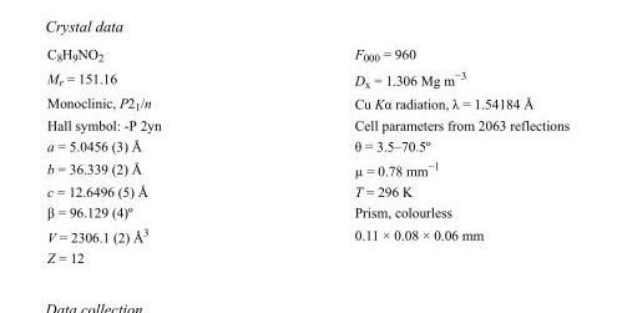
<table><tbody><tr><td>C<sub>8</sub>H<sub>9</sub>NO<sub>2</sub></td><td>F000 = 960</td></tr><tr><td>M<sub>r</sub> = 151.16</td><td>D<sub>x</sub> = 1.306 Mg m<sup>−3</sup></td></tr><tr><td>Monoclinic, P2<sub>1</sub>/n</td><td>Cu Kα radiation, λ = 1.54184 Å</td></tr><tr><td>Hall symbol: -P 2yn</td><td>Cell parameters from 2063 reflections</td></tr><tr><td>a = 5.0456 (3) Å</td><td>θ = 3.5–70.5º</td></tr><tr><td>b = 36.339 (2) Å</td><td>µ = 0.78 mm<sup>−1</sup></td></tr><tr><td>c = 12.6496 (5) Å</td><td>T = 296 K</td></tr><tr><td>β = 96.129 (4)º</td><td>Prism, colourless</td></tr><tr><td>V = 2306.1 (2) Å<sup>3</sup></td><td>0.11 × 0.08 × 0.06 mm</td></tr><tr><td>Z = 12</td><td></td></tr></tbody></table>